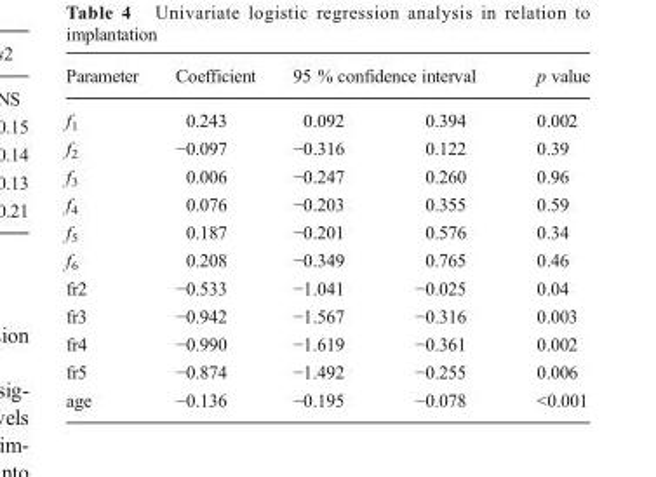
<table><thead><tr><td rowspan="2">Parameter f<sub>1</sub></td><td rowspan="2">Coefficient 0.243</td><td colspan="2">95 % confidence interval</td><td rowspan="2">p value 0.002</td></tr><tr><td>0.092</td><td>0.394</td></tr></thead><tbody><tr><td>f<sub>2</sub></td><td>−0.097</td><td>−0.316</td><td>0.122</td><td>0.39</td></tr><tr><td>f<sub>3</sub></td><td>0.006</td><td>−0.247</td><td>0.260</td><td>0.96</td></tr><tr><td>f<sub>4</sub></td><td>0.076</td><td>−0.203</td><td>0.355</td><td>0.59</td></tr><tr><td>f<sub>5</sub></td><td>0.187</td><td>−0.201</td><td>0.576</td><td>0.34</td></tr><tr><td>f<sub>6</sub></td><td>0.208</td><td>−0.349</td><td>0.765</td><td>0.46</td></tr><tr><td>fr2</td><td>−0.533</td><td>−1.041</td><td>−0.025</td><td>0.04</td></tr><tr><td>fr3</td><td>−0.942</td><td>−1.567</td><td>−0.316</td><td>0.003</td></tr><tr><td>fr4</td><td>−0.990</td><td>−1.619</td><td>−0.361</td><td>0.002</td></tr><tr><td>fr5</td><td>−0.874</td><td>−1.492</td><td>−0.255</td><td>0.006</td></tr><tr><td>age</td><td>−0.136</td><td>−0.195</td><td>−0.078</td><td>&lt;0.001</td></tr></tbody></table>